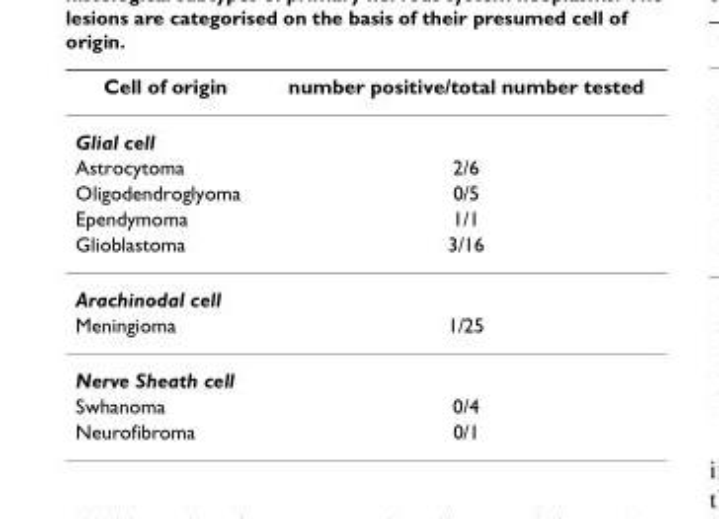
<table><thead><tr><td>Cell of origin</td><td>number positive/total number tested</td></tr></thead><tbody><tr><td colspan="2">Glial cell</td></tr><tr><td>Astrocytoma</td><td>2/6</td></tr><tr><td>Oligodendroglyoma</td><td>0/5</td></tr><tr><td>Ependymoma</td><td>1/1</td></tr><tr><td>Glioblastoma</td><td>3/16</td></tr><tr><td colspan="2">Arachinodal cell</td></tr><tr><td>Meningioma</td><td>1/25</td></tr><tr><td colspan="2">Nerve Sheath cell</td></tr><tr><td>Swhanoma</td><td>0/4</td></tr><tr><td>Neurofibroma</td><td>0/1</td></tr></tbody></table>